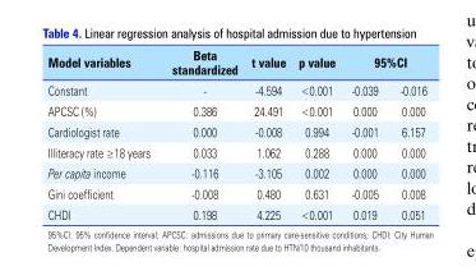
<table><thead><tr><td rowspan="2">Model variables Constant</td><td rowspan="2">Beta standardized -</td><td rowspan="2">t value -4.594</td><td rowspan="2">p value &lt;0.001</td><td colspan="2">95%CI</td></tr><tr><td>-0.039</td><td>-0.016</td></tr></thead><tbody><tr><td>APCSC (%)</td><td>0.386</td><td>24.491</td><td>&lt;0.001</td><td>0.000</td><td>0.000</td></tr><tr><td>Cardiologist rate</td><td>0.000</td><td>-0.008</td><td>0.994</td><td>-0.001</td><td>6.157</td></tr><tr><td>Illiteracy rate ≥18 years</td><td>0.033</td><td>1.062</td><td>0.288</td><td>0.000</td><td>0.000</td></tr><tr><td>Per capita income</td><td>-0.116</td><td>-3.105</td><td>0.002</td><td>0.000</td><td>0.000</td></tr><tr><td>Gini coefficient</td><td>-0.008</td><td>0.480</td><td>0.631</td><td>-0.005</td><td>0.008</td></tr><tr><td>CHDI</td><td>0.198</td><td>4.225</td><td>&lt;0.001</td><td>0.019</td><td>0.051</td></tr></tbody></table>